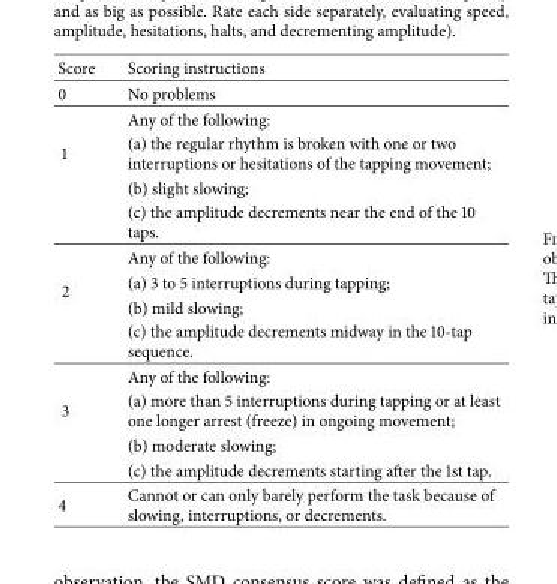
<table><tbody><tr><td>Score</td><td>Scoring instructions</td></tr><tr><td>0</td><td>No problems</td></tr><tr><td rowspan="4">1</td><td>Any of the following:</td></tr><tr><td>(a) the regular rhythm is broken with one or two interruptions or hesitations of the tapping movement;</td></tr><tr><td>(b) slight slowing;</td></tr><tr><td>(c) the amplitude decrements near the end of the 10 taps.</td></tr><tr><td rowspan="4">2</td><td>Any of the following:</td></tr><tr><td>(a) 3 to 5 interruptions during tapping;</td></tr><tr><td>(b) mild slowing;</td></tr><tr><td>(c) the amplitude decrements midway in the 10-tap sequence.</td></tr><tr><td rowspan="4">3</td><td>Any of the following:</td></tr><tr><td>(a) more than 5 interruptions during tapping or at least one longer arrest (freeze) in ongoing movement;</td></tr><tr><td>(b) moderate slowing;</td></tr><tr><td>(c) the amplitude decrements starting after the 1st tap.</td></tr><tr><td>4</td><td>Cannot or can only barely perform the task because of slowing, interruptions, or decrements.</td></tr></tbody></table>